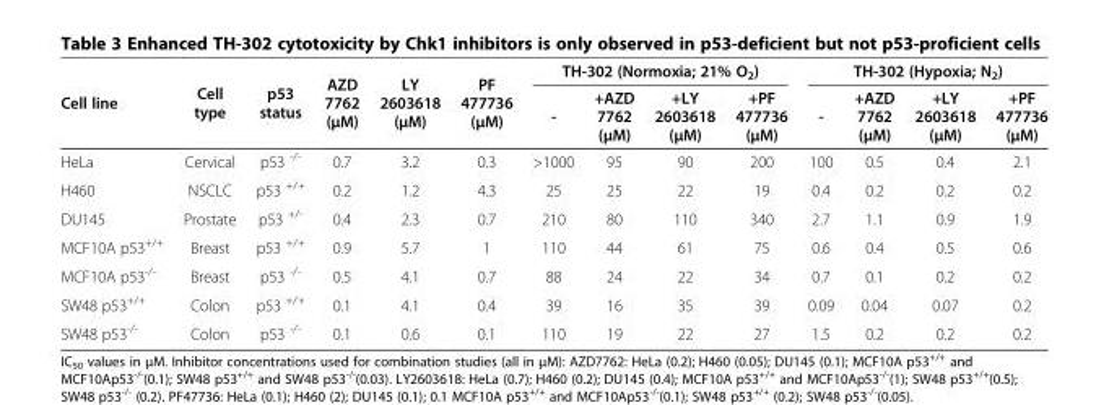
<table><thead><tr><td rowspan="2">Cell line</td><td rowspan="2">Cell type</td><td rowspan="2">p53 status</td><td rowspan="2">AZD 7762 (μM)</td><td rowspan="2">LY 2603618 (μM)</td><td rowspan="2">PF 477736 (μM)</td><td colspan="4">TH-302 (Normoxia; 21% O<sub>2</sub>)</td><td colspan="4">TH-302 (Hypoxia; N<sub>2</sub>)</td></tr><tr><td>-</td><td>+AZD 7762 (μM)</td><td>+LY 2603618 (μM)</td><td>+PF 477736 (μM)</td><td>-</td><td>+AZD 7762 (μM)</td><td>+LY 2603618 (μM)</td><td>+PF 477736 (μM)</td></tr></thead><tbody><tr><td>HeLa</td><td>Cervical</td><td>p53 <sup>-/-</sup></td><td>0.7</td><td>3.2</td><td>0.3</td><td>&gt;1000</td><td>95</td><td>90</td><td>200</td><td>100</td><td>0.5</td><td>0.4</td><td>2.1</td></tr><tr><td>H460</td><td>NSCLC</td><td>p53 <sup>+/+</sup></td><td>0.2</td><td>1.2</td><td>4.3</td><td>25</td><td>25</td><td>22</td><td>19</td><td>0.4</td><td>0.2</td><td>0.2</td><td>0.2</td></tr><tr><td>DU145</td><td>Prostate</td><td>p53 <sup>+/-</sup></td><td>0.4</td><td>2.3</td><td>0.7</td><td>210</td><td>80</td><td>110</td><td>340</td><td>2.7</td><td>1.1</td><td>0.9</td><td>1.9</td></tr><tr><td>MCF10A p53<sup>+/+</sup></td><td>Breast</td><td>p53 <sup>+/+</sup></td><td>0.9</td><td>5.7</td><td>1</td><td>110</td><td>44</td><td>61</td><td>75</td><td>0.6</td><td>0.4</td><td>0.5</td><td>0.6</td></tr><tr><td>MCF10A p53<sup>-/-</sup></td><td>Breast</td><td>p53 <sup>-/-</sup></td><td>0.5</td><td>4.1</td><td>0.7</td><td>88</td><td>24</td><td>22</td><td>34</td><td>0.7</td><td>0.1</td><td>0.2</td><td>0.2</td></tr><tr><td>SW48 p53<sup>+/+</sup></td><td>Colon</td><td>p53 <sup>+/+</sup></td><td>0.1</td><td>4.1</td><td>0.4</td><td>39</td><td>16</td><td>35</td><td>39</td><td>0.09</td><td>0.04</td><td>0.07</td><td>0.2</td></tr><tr><td>SW48 p53<sup>-/-</sup></td><td>Colon</td><td>p53 <sup>-/-</sup></td><td>0.1</td><td>0.6</td><td>0.1</td><td>110</td><td>19</td><td>22</td><td>27</td><td>1.5</td><td>0.2</td><td>0.2</td><td>0.2</td></tr></tbody></table>